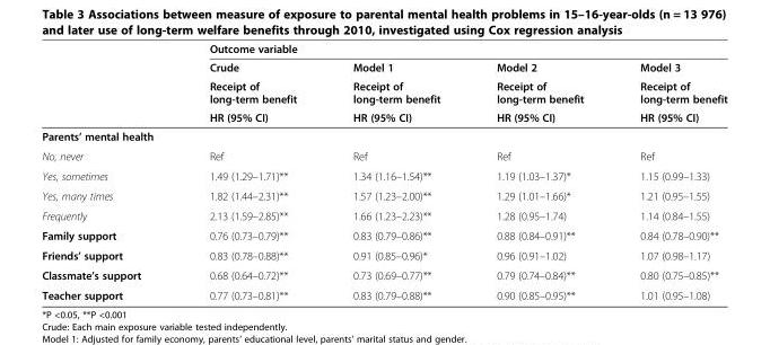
<table><thead><tr><td rowspan="4"></td><td colspan="4">Outcome variable</td></tr><tr><td rowspan="3">Crude Receipt of long-term benefit HR (95% CI)</td><td rowspan="3">Model 1 Receipt of long-term benefit HR (95% CI)</td><td rowspan="3">Model 2 Receipt of long-term benefit HR (95% CI)</td><td rowspan="3">Model 3 Receipt of long-term benefit HR (95% CI)</td></tr><tr></tr><tr></tr></thead><tbody><tr><td colspan="5">Parents’ mental health</td></tr><tr><td>No, never</td><td>Ref</td><td>Ref</td><td>Ref</td><td>Ref</td></tr><tr><td>Yes, sometimes</td><td>1.49 (1.29–1.71)**</td><td>1.34 (1.16–1.54)**</td><td>1.19 (1.03–1.37)*</td><td>1.15 (0.99–1.33)</td></tr><tr><td>Yes, many times</td><td>1.82 (1.44–2.31)**</td><td>1.57 (1.23–2.00)**</td><td>1.29 (1.01–1.66)*</td><td>1.21 (0.95–1.55)</td></tr><tr><td>Frequently</td><td>2.13 (1.59–2.85)**</td><td>1.66 (1.23–2.23)**</td><td>1.28 (0.95–1.74)</td><td>1.14 (0.84–1.55)</td></tr><tr><td>Family support</td><td>0.76 (0.73–0.79)**</td><td>0.83 (0.79–0.86)**</td><td>0.88 (0.84–0.91)**</td><td>0.84 (0.78–0.90)**</td></tr><tr><td>Friends’ support</td><td>0.83 (0.78–0.88)**</td><td>0.91 (0.85–0.96)*</td><td>0.96 (0.91–1.02)</td><td>1.07 (0.98–1.17)</td></tr><tr><td>Classmate’s support</td><td>0.68 (0.64–0.72)**</td><td>0.73 (0.69–0.77)**</td><td>0.79 (0.74–0.84)**</td><td>0.80 (0.75–0.85)**</td></tr><tr><td>Teacher support</td><td>0.77 (0.73–0.81)**</td><td>0.83 (0.79–0.88)**</td><td>0.90 (0.85–0.95)**</td><td>1.01 (0.95–1.08)</td></tr></tbody></table>